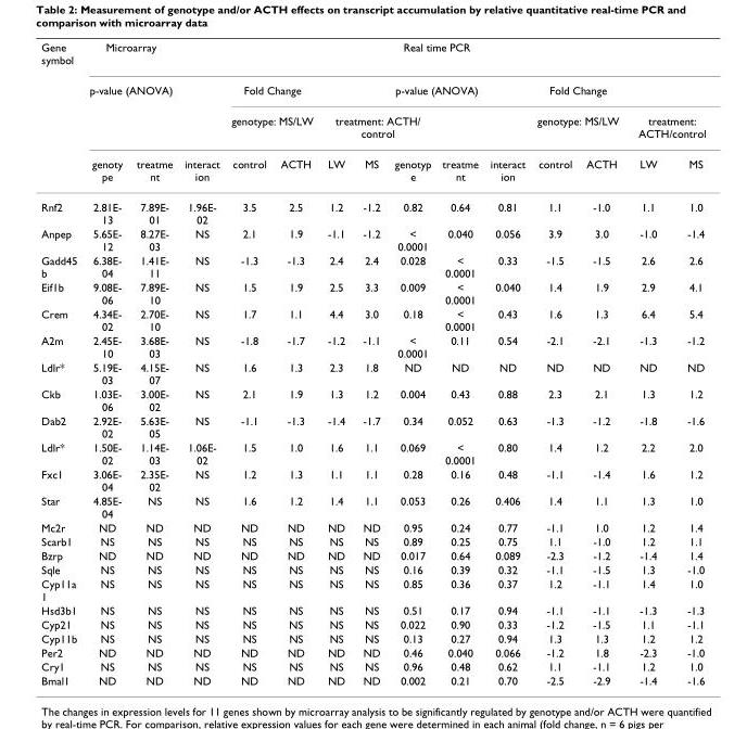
<table><thead><tr><td rowspan="4">Gene symbol</td><td rowspan="2" colspan="2">Microarray p-value (ANOVA)</td><td rowspan="4">interact ion</td><td></td><td></td><td rowspan="2"></td><td rowspan="2"></td><td rowspan="2" colspan="2">Real time PCR p-value (ANOVA)</td><td rowspan="4">interact ion</td><td></td><td></td><td rowspan="2"></td><td rowspan="2"></td></tr><tr><td rowspan="2" colspan="2">Fold Change genotype: MS/LW</td><td rowspan="2" colspan="2">Fold Change genotype: MS/LW</td></tr><tr><td rowspan="2">genoty pe</td><td rowspan="2">treatme nt</td><td colspan="3">treatment: ACTH/ control</td><td rowspan="2">treatme nt</td><td colspan="2">treatment: ACTH/control</td></tr><tr><td>control</td><td>ACTH</td><td>LW</td><td>MS</td><td>genotyp e</td><td>control</td><td>ACTH</td><td>LW</td><td>MS</td></tr></thead><tbody><tr><td>Rnf2</td><td>2.81E- 13</td><td>7.89E- 01</td><td>1.96E- 02</td><td>3.5</td><td>2.5</td><td>1.2</td><td>-1.2</td><td>0.82</td><td>0.64</td><td>0.81</td><td>1.1</td><td>-1.0</td><td>1.1</td><td>1.0</td></tr><tr><td>Anpep</td><td>5.65E- 12</td><td>8.27E- 03</td><td>NS</td><td>2.1</td><td>1.9</td><td>-1.1</td><td>-1.2</td><td>&lt; 0.0001</td><td>0.040</td><td>0.056</td><td>3.9</td><td>3.0</td><td>-1.0</td><td>-1.4</td></tr><tr><td>Gadd45 b</td><td>6.38E- 04</td><td>1.41E- 11</td><td>NS</td><td>-1.3</td><td>-1.3</td><td>2.4</td><td>2.4</td><td>0.028</td><td>&lt; 0.0001</td><td>0.33</td><td>-1.5</td><td>-1.5</td><td>2.6</td><td>2.6</td></tr><tr><td>Eif1b</td><td>9.08E- 06</td><td>7.89E- 10</td><td>NS</td><td>1.5</td><td>1.9</td><td>2.5</td><td>3.3</td><td>0.009</td><td>&lt; 0.0001</td><td>0.040</td><td>1.4</td><td>1.9</td><td>2.9</td><td>4.1</td></tr><tr><td>Crem</td><td>4.34E- 02</td><td>2.70E- 10</td><td>NS</td><td>1.7</td><td>1.1</td><td>4.4</td><td>3.0</td><td>0.18</td><td>&lt; 0.0001</td><td>0.43</td><td>1.6</td><td>1.3</td><td>6.4</td><td>5.4</td></tr><tr><td>A2m</td><td>2.45E- 10</td><td>3.68E- 03</td><td>NS</td><td>-1.8</td><td>-1.7</td><td>-1.2</td><td>-1.1</td><td>&lt; 0.0001</td><td>0.11</td><td>0.54</td><td>-2.1</td><td>-2.1</td><td>-1.3</td><td>-1.2</td></tr><tr><td>Ldlr*</td><td>5.19E- 03</td><td>4.15E- 07</td><td>NS</td><td>1.6</td><td>1.3</td><td>2.3</td><td>1.8</td><td>ND</td><td>ND</td><td>ND</td><td>ND</td><td>ND</td><td>ND</td><td>ND</td></tr><tr><td>Ckb</td><td>1.03E- 06</td><td>3.00E- 02</td><td>NS</td><td>2.1</td><td>1.9</td><td>1.3</td><td>1.2</td><td>0.004</td><td>0.43</td><td>0.88</td><td>2.3</td><td>2.1</td><td>1.3</td><td>1.2</td></tr><tr><td>Dab2</td><td>2.92E- 02</td><td>5.63E- 05</td><td>NS</td><td>-1.1</td><td>-1.3</td><td>-1.4</td><td>-1.7</td><td>0.34</td><td>0.052</td><td>0.63</td><td>-1.3</td><td>-1.2</td><td>-1.8</td><td>-1.6</td></tr><tr><td>Ldlr*</td><td>1.50E- 02</td><td>1.14E- 03</td><td>1.06E- 02</td><td>1.5</td><td>1.0</td><td>1.6</td><td>1.1</td><td>0.069</td><td>&lt; 0.0001</td><td>0.80</td><td>1.4</td><td>1.2</td><td>2.2</td><td>2.0</td></tr><tr><td>Fxc1</td><td>3.06E- 04</td><td>2.35E- 02</td><td>NS</td><td>1.2</td><td>1.3</td><td>1.1</td><td>1.1</td><td>0.28</td><td>0.16</td><td>0.48</td><td>-1.1</td><td>-1.4</td><td>1.6</td><td>1.2</td></tr><tr><td>Star</td><td>4.85E- 04</td><td>NS</td><td>NS</td><td>1.6</td><td>1.2</td><td>1.4</td><td>1.1</td><td>0.053</td><td>0.26</td><td>0.406</td><td>1.4</td><td>1.1</td><td>1.3</td><td>1.0</td></tr><tr><td>Mc2r</td><td>ND</td><td>ND</td><td>ND</td><td>ND</td><td>ND</td><td>ND</td><td>ND</td><td>0.95</td><td>0.24</td><td>0.77</td><td>-1.1</td><td>1.0</td><td>1.2</td><td>1.4</td></tr><tr><td>Scarb1</td><td>NS</td><td>NS</td><td>NS</td><td>NS</td><td>NS</td><td>NS</td><td>NS</td><td>0.89</td><td>0.25</td><td>0.75</td><td>1.1</td><td>-1.0</td><td>1.2</td><td>1.1</td></tr><tr><td>Bzrp</td><td>ND</td><td>ND</td><td>ND</td><td>ND</td><td>ND</td><td>ND</td><td>ND</td><td>0.017</td><td>0.64</td><td>0.089</td><td>-2.3</td><td>-1.2</td><td>-1.4</td><td>1.4</td></tr><tr><td>Sqle</td><td>NS</td><td>NS</td><td>NS</td><td>NS</td><td>NS</td><td>NS</td><td>NS</td><td>0.16</td><td>0.39</td><td>0.32</td><td>-1.1</td><td>-1.5</td><td>1.3</td><td>-1.0</td></tr><tr><td>Cyp11a 1</td><td>NS</td><td>NS</td><td>NS</td><td>NS</td><td>NS</td><td>NS</td><td>NS</td><td>0.85</td><td>0.36</td><td>0.37</td><td>1.2</td><td>-1.1</td><td>1.4</td><td>1.0</td></tr><tr><td>Hsd3b1</td><td>NS</td><td>NS</td><td>NS</td><td>NS</td><td>NS</td><td>NS</td><td>NS</td><td>0.51</td><td>0.17</td><td>0.94</td><td>-1.1</td><td>-1.1</td><td>-1.3</td><td>-1.3</td></tr><tr><td>Cyp21</td><td>NS</td><td>NS</td><td>NS</td><td>NS</td><td>NS</td><td>NS</td><td>NS</td><td>0.022</td><td>0.90</td><td>0.33</td><td>-1.2</td><td>-1.5</td><td>1.1</td><td>-1.1</td></tr><tr><td>Cyp11b</td><td>NS</td><td>NS</td><td>NS</td><td>NS</td><td>NS</td><td>NS</td><td>NS</td><td>0.13</td><td>0.27</td><td>0.94</td><td>1.3</td><td>1.3</td><td>1.2</td><td>1.2</td></tr><tr><td>Per2</td><td>ND</td><td>ND</td><td>ND</td><td>ND</td><td>ND</td><td>ND</td><td>ND</td><td>0.46</td><td>0.040</td><td>0.066</td><td>-1.2</td><td>1.8</td><td>-2.3</td><td>-1.0</td></tr><tr><td>Cry1</td><td>NS</td><td>NS</td><td>NS</td><td>NS</td><td>NS</td><td>NS</td><td>NS</td><td>0.96</td><td>0.48</td><td>0.62</td><td>1.1</td><td>-1.1</td><td>1.2</td><td>1.0</td></tr><tr><td>Bmal1</td><td>ND</td><td>ND</td><td>ND</td><td>ND</td><td>ND</td><td>ND</td><td>ND</td><td>0.002</td><td>0.21</td><td>0.70</td><td>-2.5</td><td>-2.9</td><td>-1.4</td><td>-1.6</td></tr></tbody></table>